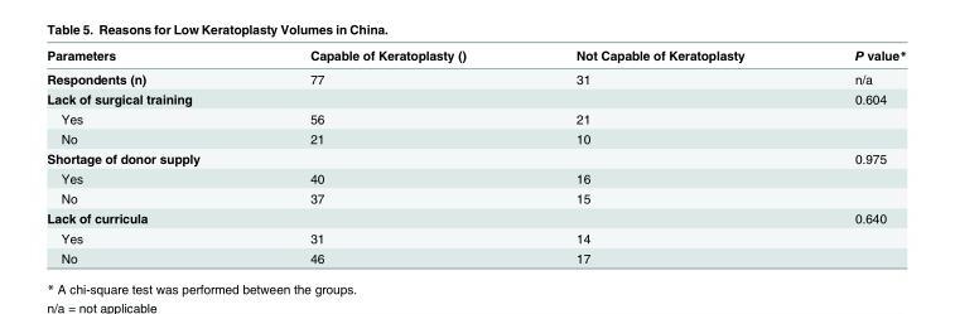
<table><thead><tr><td>Parameters</td><td>Capable of Keratoplasty ()</td><td>Not Capable of Keratoplasty</td><td>P value*</td></tr></thead><tbody><tr><td>Respondents (n)</td><td>77</td><td>31</td><td>n/a</td></tr><tr><td>Lack of surgical training</td><td></td><td></td><td>0.604</td></tr><tr><td>Yes</td><td>56</td><td>21</td><td></td></tr><tr><td>No</td><td>21</td><td>10</td><td></td></tr><tr><td>Shortage of donor supply</td><td></td><td></td><td>0.975</td></tr><tr><td>Yes</td><td>40</td><td>16</td><td></td></tr><tr><td>No</td><td>37</td><td>15</td><td></td></tr><tr><td>Lack of curricula</td><td></td><td></td><td>0.640</td></tr><tr><td>Yes</td><td>31</td><td>14</td><td></td></tr><tr><td>No</td><td>46</td><td>17</td><td></td></tr></tbody></table>